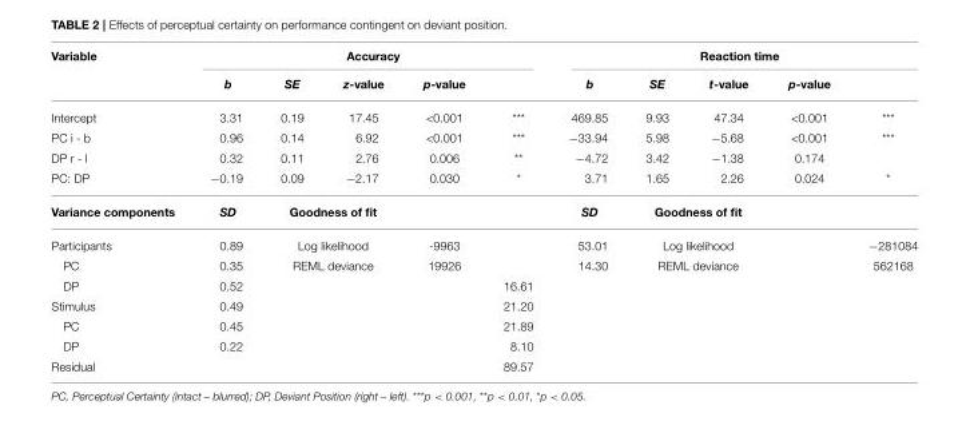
<table><thead><tr><td rowspan="2">Variable</td><td colspan="5">Accuracy</td><td colspan="5">Reaction time</td></tr><tr><td>b</td><td>SE</td><td>z-value</td><td>p-value</td><td></td><td>b</td><td>SE</td><td>t-value</td><td>p-value</td><td></td></tr></thead><tbody><tr><td>Intercept</td><td>3.31</td><td>0.19</td><td>17.45</td><td>&lt;0.001</td><td>***</td><td>469.85</td><td>9.93</td><td>47.34</td><td>&lt;0.001</td><td>***</td></tr><tr><td>PC i - b</td><td>0.96</td><td>0.14</td><td>6.92</td><td>&lt;0.001</td><td>***</td><td>−33.94</td><td>5.98</td><td>−5.68</td><td>&lt;0.001</td><td>***</td></tr><tr><td>DP r - l</td><td>0.32</td><td>0.11</td><td>2.76</td><td>0.006</td><td>**</td><td>−4.72</td><td>3.42</td><td>−1.38</td><td>0.174</td><td></td></tr><tr><td>PC: DP</td><td>−0.19</td><td>0.09</td><td>−2.17</td><td>0.030</td><td>*</td><td>3.71</td><td>1.65</td><td>2.26</td><td>0.024</td><td>*</td></tr><tr><td>Variance components</td><td>SD</td><td colspan="2">Goodness of fit</td><td></td><td></td><td>SD</td><td colspan="2">Goodness of fit</td><td></td><td></td></tr><tr><td>Participants</td><td>0.89</td><td colspan="2">Log likelihood</td><td>-9963</td><td></td><td>53.01</td><td colspan="2">Log likelihood</td><td></td><td>−281084</td></tr><tr><td>PC</td><td>0.35</td><td colspan="2">REML deviance</td><td>19926</td><td></td><td>14.30</td><td colspan="2">REML deviance</td><td></td><td>562168</td></tr><tr><td>DP</td><td>0.52</td><td></td><td></td><td></td><td>16.61</td><td></td><td></td><td></td><td></td><td></td></tr><tr><td>Stimulus</td><td>0.49</td><td></td><td></td><td></td><td>21.20</td><td></td><td></td><td></td><td></td><td></td></tr><tr><td>PC</td><td>0.45</td><td></td><td></td><td></td><td>21.89</td><td></td><td></td><td></td><td></td><td></td></tr><tr><td>DP</td><td>0.22</td><td></td><td></td><td></td><td>8.10</td><td></td><td></td><td></td><td></td><td></td></tr><tr><td>Residual</td><td></td><td></td><td></td><td></td><td>89.57</td><td></td><td></td><td></td><td></td><td></td></tr></tbody></table>